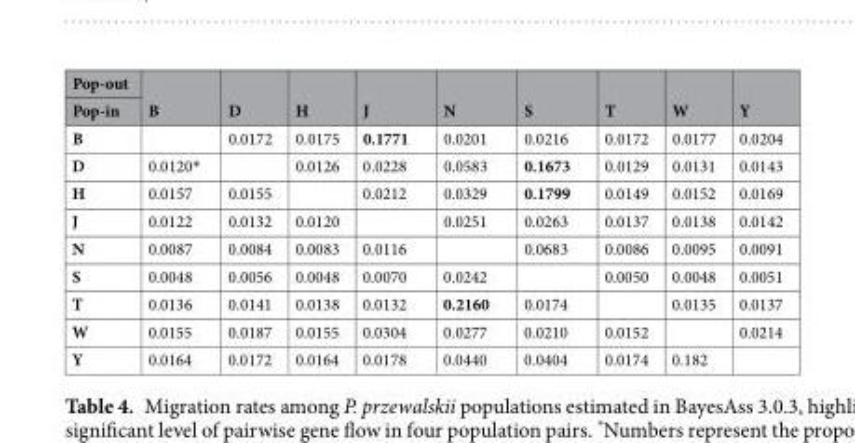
<table><thead><tr><td rowspan="2">Pop-out Pop-in</td><td rowspan="2">B</td><td rowspan="2">D</td><td rowspan="2">H</td><td rowspan="2">J</td><td rowspan="2">N</td><td rowspan="2">S</td><td rowspan="2">T</td><td rowspan="2">W</td><td rowspan="2">Y</td></tr><tr></tr></thead><tbody><tr><td>B</td><td></td><td>0.0172</td><td>0.0175</td><td>0.1771</td><td>0.0201</td><td>0.0216</td><td>0.0172</td><td>0.0177</td><td>0.0204</td></tr><tr><td>D</td><td>0.0120*</td><td></td><td>0.0126</td><td>0.0228</td><td>0.0583</td><td>0.1673</td><td>0.0129</td><td>0.0131</td><td>0.0143</td></tr><tr><td>H</td><td>0.0157</td><td>0.0155</td><td></td><td>0.0212</td><td>0.0329</td><td>0.1799</td><td>0.0149</td><td>0.0152</td><td>0.0169</td></tr><tr><td>J</td><td>0.0122</td><td>0.0132</td><td>0.0120</td><td></td><td>0.0251</td><td>0.0263</td><td>0.0137</td><td>0.0138</td><td>0.0142</td></tr><tr><td>N</td><td>0.0087</td><td>0.0084</td><td>0.0083</td><td>0.0116</td><td></td><td>0.0683</td><td>0.0086</td><td>0.0095</td><td>0.0091</td></tr><tr><td>S</td><td>0.0048</td><td>0.0056</td><td>0.0048</td><td>0.0070</td><td>0.0242</td><td></td><td>0.0050</td><td>0.0048</td><td>0.0051</td></tr><tr><td>T</td><td>0.0136</td><td>0.0141</td><td>0.0138</td><td>0.0132</td><td>0.2160</td><td>0.0174</td><td></td><td>0.0135</td><td>0.0137</td></tr><tr><td>W</td><td>0.0155</td><td>0.0187</td><td>0.0155</td><td>0.0304</td><td>0.0277</td><td>0.0210</td><td>0.0152</td><td></td><td>0.0214</td></tr><tr><td>Y</td><td>0.0164</td><td>0.0172</td><td>0.0164</td><td>0.0178</td><td>0.0440</td><td>0.0404</td><td>0.0174</td><td>0.182</td><td></td></tr></tbody></table>